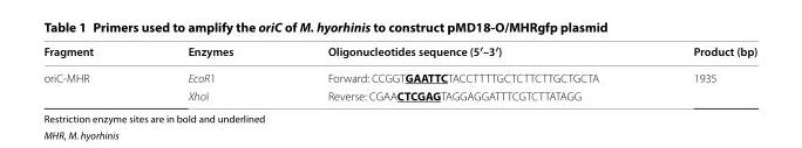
<table><thead><tr><td>Fragment</td><td>Enzymes</td><td>Oligonucleotides sequence (5′–3′)</td><td>Product (bp)</td></tr></thead><tbody><tr><td rowspan="2">oriC-MHR</td><td>EcoR1</td><td>Forward: CCGGTGAATTCTACCTTTTGCTCTTCTTGCTGCTA</td><td rowspan="2">1935</td></tr><tr><td>XhoI</td><td>Reverse: CGAACTCGAGTAGGAGGATTTCGTCTTATAGG</td></tr></tbody></table>